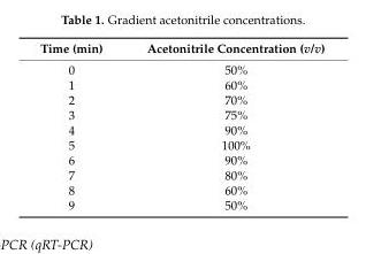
<table><thead><tr><td>Time (min)</td><td>Acetonitrile Concentration (v/v)</td></tr></thead><tbody><tr><td>0</td><td>50%</td></tr><tr><td>1</td><td>60%</td></tr><tr><td>2</td><td>70%</td></tr><tr><td>3</td><td>75%</td></tr><tr><td>4</td><td>90%</td></tr><tr><td>5</td><td>100%</td></tr><tr><td>6</td><td>90%</td></tr><tr><td>7</td><td>80%</td></tr><tr><td>8</td><td>60%</td></tr><tr><td>9</td><td>50%</td></tr></tbody></table>